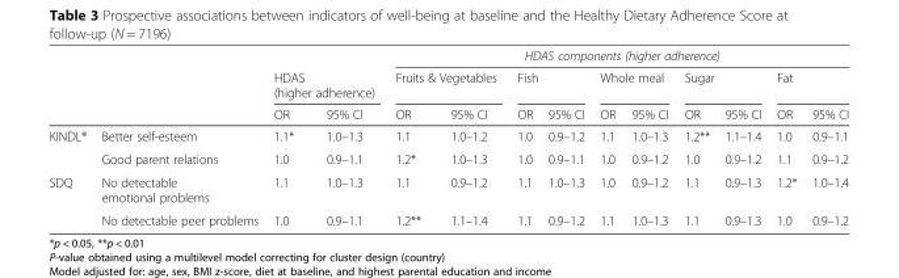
<table><thead><tr><td rowspan="3"></td><td rowspan="3"></td><td></td><td></td><td colspan="10">HDAS components (higher adherence)</td></tr><tr><td colspan="2">HDAS (higher adherence)</td><td colspan="2">Fruits &amp; Vegetables</td><td colspan="2">Fish</td><td colspan="2">Whole meal</td><td colspan="2">Sugar</td><td colspan="2">Fat</td></tr><tr><td>OR</td><td>95% CI</td><td>OR</td><td>95% CI</td><td>OR</td><td>95% CI</td><td>OR</td><td>95% CI</td><td>OR</td><td>95% CI</td><td>OR</td><td>95% CI</td></tr></thead><tbody><tr><td rowspan="2">KINDL®</td><td>Better self-esteem</td><td>1.1*</td><td>1.0–1.3</td><td>1.1</td><td>1.0–1.2</td><td>1.0</td><td>0.9–1.2</td><td>1.1</td><td>1.0–1.3</td><td>1.2**</td><td>1.1–1.4</td><td>1.0</td><td>0.9–1.1</td></tr><tr><td>Good parent relations</td><td>1.0</td><td>0.9–1.1</td><td>1.2*</td><td>1.0–1.3</td><td>1.0</td><td>0.9–1.1</td><td>1.0</td><td>0.9–1.2</td><td>1.0</td><td>0.9–1.2</td><td>1.1</td><td>0.9–1.2</td></tr><tr><td rowspan="2">SDQ</td><td>No detectable emotional problems</td><td>1.1</td><td>1.0–1.3</td><td>1.1</td><td>0.9–1.2</td><td>1.1</td><td>1.0–1.3</td><td>1.0</td><td>0.9–1.2</td><td>1.1</td><td>0.9–1.3</td><td>1.2*</td><td>1.0–1.4</td></tr><tr><td>No detectable peer problems</td><td>1.0</td><td>0.9–1.1</td><td>1.2**</td><td>1.1–1.4</td><td>1.1</td><td>0.9–1.2</td><td>1.1</td><td>1.0–1.3</td><td>1.1</td><td>0.9–1.3</td><td>1.0</td><td>0.9–1.2</td></tr></tbody></table>